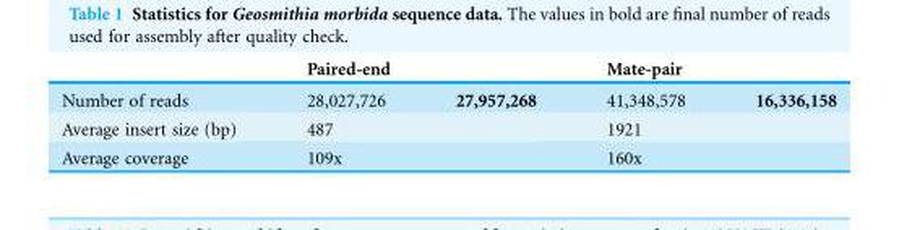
<table><thead><tr><td rowspan="2">Number of reads</td><td colspan="2">Paired-end</td><td colspan="2">Mate-pair</td></tr><tr><td>28,027,726</td><td>27,957,268</td><td>41,348,578</td><td>16,336,158</td></tr></thead><tbody><tr><td>Average insert size (bp)</td><td colspan="2">487</td><td colspan="2">1921</td></tr><tr><td>Average coverage</td><td colspan="2">109x</td><td colspan="2">160x</td></tr></tbody></table>